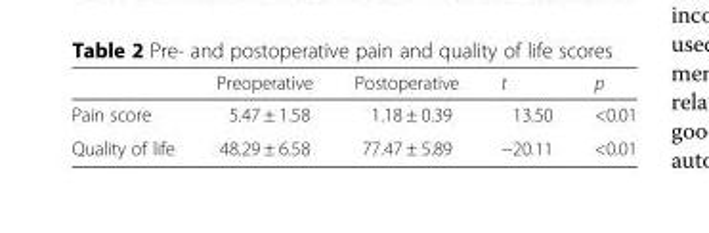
<table><thead><tr><td></td><td>Preoperative</td><td>Postoperative</td><td>t</td><td>p</td></tr></thead><tbody><tr><td>Pain score</td><td>5.47 ± 1.58</td><td>1.18 ± 0.39</td><td>13.50</td><td>&lt;0.01</td></tr><tr><td>Quality of life</td><td>48.29 ± 6.58</td><td>77.47 ± 5.89</td><td>−20.11</td><td>&lt;0.01</td></tr></tbody></table>